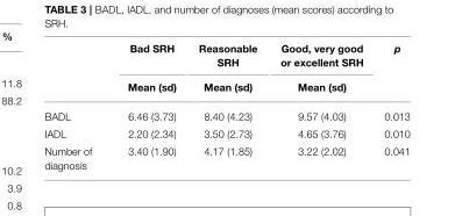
<table><thead><tr><td rowspan="2"></td><td rowspan="2">Bad SRH Mean (sd)</td><td rowspan="2">Reasonable SRH Mean (sd)</td><td rowspan="2">Good, very good or excellent SRH Mean (sd)</td><td rowspan="2">p</td></tr><tr></tr></thead><tbody><tr><td>BADL</td><td>6.46 (3.73)</td><td>8.40 (4.23)</td><td>9.57 (4.03)</td><td>0.013</td></tr><tr><td>IADL</td><td>2.20 (2.34)</td><td>3.50 (2.73)</td><td>4.65 (3.76)</td><td>0.010</td></tr><tr><td>Number of diagnosis</td><td>3.40 (1.90)</td><td>4.17 (1.85)</td><td>3.22 (2.02)</td><td>0.041</td></tr></tbody></table>